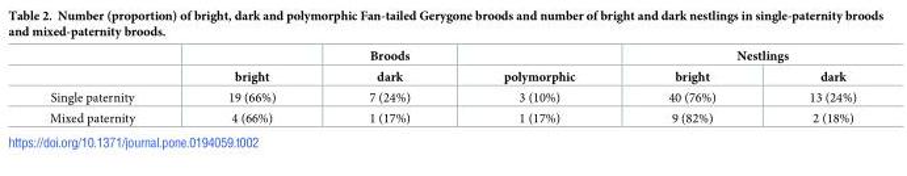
<table><thead><tr><td rowspan="2"></td><td rowspan="2">bright</td><td rowspan="2">Broods dark</td><td rowspan="2">polymorphic</td><td colspan="2">Nestlings</td></tr><tr><td>bright</td><td>dark</td></tr></thead><tbody><tr><td>Single paternity</td><td>19 (66%)</td><td>7 (24%)</td><td>3 (10%)</td><td>40 (76%)</td><td>13 (24%)</td></tr><tr><td>Mixed paternity</td><td>4 (66%)</td><td>1 (17%)</td><td>1 (17%)</td><td>9 (82%)</td><td>2 (18%)</td></tr></tbody></table>